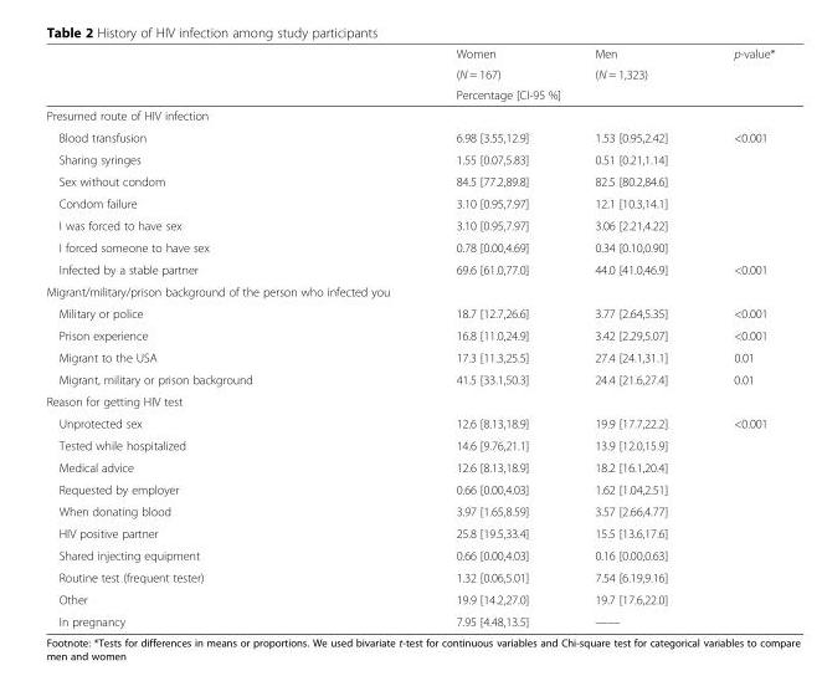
<table><thead><tr><td rowspan="3"></td><td rowspan="2">Women (N = 167)</td><td rowspan="2">Men (N = 1,323)</td><td rowspan="3">p-value*</td></tr><tr></tr><tr><td colspan="2">Percentage [CI-95 %]</td></tr></thead><tbody><tr><td colspan="4">Presumed route of HIV infection</td></tr><tr><td>Blood transfusion</td><td>6.98 [3.55,12.9]</td><td>1.53 [0.95,2.42]</td><td>&lt;0.001</td></tr><tr><td>Sharing syringes</td><td>1.55 [0.07,5.83]</td><td>0.51 [0.21,1.14]</td><td></td></tr><tr><td>Sex without condom</td><td>84.5 [77.2,89.8]</td><td>82.5 [80.2,84.6]</td><td></td></tr><tr><td>Condom failure</td><td>3.10 [0.95,7.97]</td><td>12.1 [10.3,14.1]</td><td></td></tr><tr><td>I was forced to have sex</td><td>3.10 [0.95,7.97]</td><td>3.06 [2.21,4.22]</td><td></td></tr><tr><td>I forced someone to have sex</td><td>0.78 [0.00,4.69]</td><td>0.34 [0.10,0.90]</td><td></td></tr><tr><td>Infected by a stable partner</td><td>69.6 [61.0,77.0]</td><td>44.0 [41.0,46.9]</td><td>&lt;0.001</td></tr><tr><td colspan="4">Migrant/military/prison background of the person who infected you</td></tr><tr><td>Military or police</td><td>18.7 [12.7,26.6]</td><td>3.77 [2.64,5.35]</td><td>&lt;0.001</td></tr><tr><td>Prison experience</td><td>16.8 [11.0,24.9]</td><td>3.42 [2.29,5.07]</td><td>&lt;0.001</td></tr><tr><td>Migrant to the USA</td><td>17.3 [11.3,25.5]</td><td>27.4 [24.1,31.1]</td><td>0.01</td></tr><tr><td>Migrant, military or prison background</td><td>41.5 [33.1,50.3]</td><td>24.4 [21.6,27.4]</td><td>0.01</td></tr><tr><td colspan="4">Reason for getting HIV test</td></tr><tr><td>Unprotected sex</td><td>12.6 [8.13,18.9]</td><td>19.9 [17.7,22.2]</td><td>&lt;0.001</td></tr><tr><td>Tested while hospitalized</td><td>14.6 [9.76,21.1]</td><td>13.9 [12.0,15.9]</td><td></td></tr><tr><td>Medical advice</td><td>12.6 [8.13,18.9]</td><td>18.2 [16.1,20.4]</td><td></td></tr><tr><td>Requested by employer</td><td>0.66 [0.00,4.03]</td><td>1.62 [1.04,2.51]</td><td></td></tr><tr><td>When donating blood</td><td>3.97 [1.65,8.59]</td><td>3.57 [2.66,4.77]</td><td></td></tr><tr><td>HIV positive partner</td><td>25.8 [19.5,33.4]</td><td>15.5 [13.6,17.6]</td><td></td></tr><tr><td>Shared injecting equipment</td><td>0.66 [0.00,4.03]</td><td>0.16 [0.00,0.63]</td><td></td></tr><tr><td>Routine test (frequent tester)</td><td>1.32 [0.06,5.01]</td><td>7.54 [6.19,9.16]</td><td></td></tr><tr><td>Other</td><td>19.9 [14.2,27.0]</td><td>19.7 [17.6,22.0]</td><td></td></tr><tr><td>In pregnancy</td><td>7.95 [4.48,13.5]</td><td>——</td><td></td></tr></tbody></table>